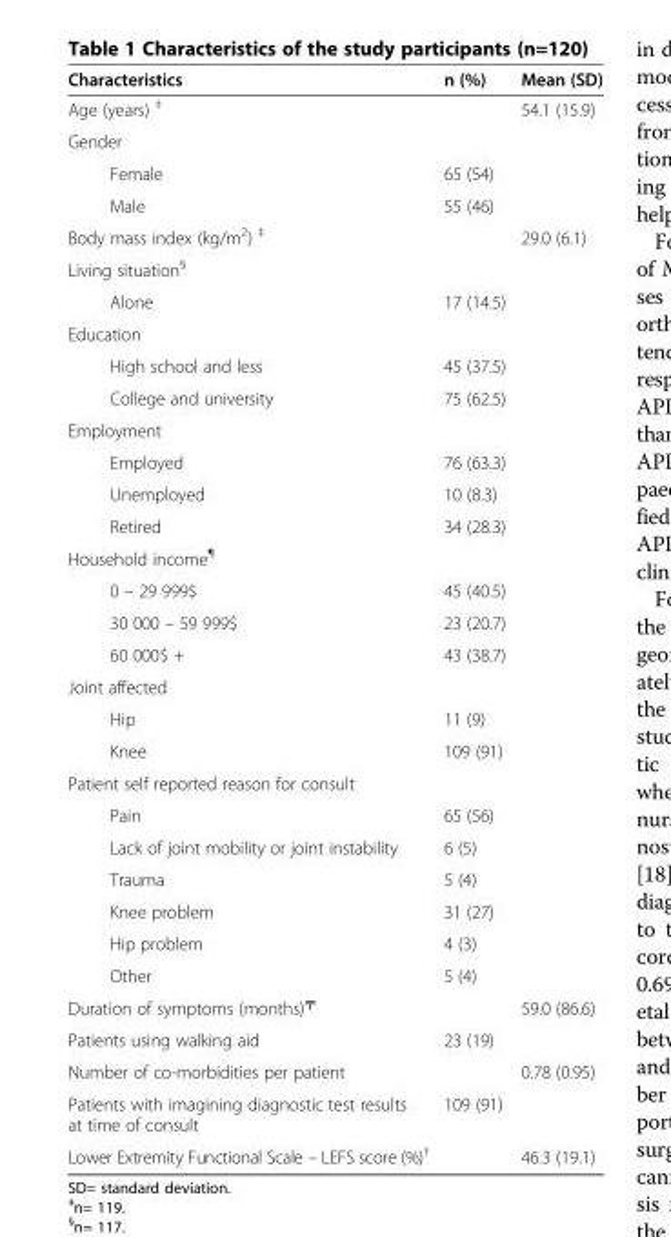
<table><thead><tr><td>Characteristics</td><td>n (%)</td><td>Mean (SD)</td></tr></thead><tbody><tr><td>Age (years) <sup>‡</sup></td><td></td><td>54.1 (15.9)</td></tr><tr><td colspan="2">Gender</td><td rowspan="3"></td></tr><tr><td>Female</td><td>65 (54)</td></tr><tr><td>Male</td><td>55 (46)</td></tr><tr><td>Body mass index (kg/m<sup>2</sup>) <sup>‡</sup></td><td></td><td>29.0 (6.1)</td></tr><tr><td colspan="2">Living situation<sup>§</sup></td><td rowspan="2"></td></tr><tr><td>Alone</td><td>17 (14.5)</td></tr><tr><td colspan="2">Education</td><td rowspan="3"></td></tr><tr><td>High school and less</td><td>45 (37.5)</td></tr><tr><td>College and university</td><td>75 (62.5)</td></tr><tr><td colspan="2">Employment</td><td rowspan="4"></td></tr><tr><td>Employed</td><td>76 (63.3)</td></tr><tr><td>Unemployed</td><td>10 (8.3)</td></tr><tr><td>Retired</td><td>34 (28.3)</td></tr><tr><td colspan="2">Household income<sup>¶</sup></td><td rowspan="4"></td></tr><tr><td>0 – 29 999$</td><td>45 (40.5)</td></tr><tr><td>30 000 – 59 999$</td><td>23 (20.7)</td></tr><tr><td>60 000$ +</td><td>43 (38.7)</td></tr><tr><td colspan="2">Joint affected</td><td rowspan="3"></td></tr><tr><td>Hip</td><td>11 (9)</td></tr><tr><td>Knee</td><td>109 (91)</td></tr><tr><td colspan="2">Patient self reported reason for consult</td><td rowspan="7"></td></tr><tr><td>Pain</td><td>65 (56)</td></tr><tr><td>Lack of joint mobility or joint instability</td><td>6 (5)</td></tr><tr><td>Trauma</td><td>5 (4)</td></tr><tr><td>Knee problem</td><td>31 (27)</td></tr><tr><td>Hip problem</td><td>4 (3)</td></tr><tr><td>Other</td><td>5 (4)</td></tr><tr><td>Duration of symptoms (months)<sup>╤</sup></td><td></td><td>59.0 (86.6)</td></tr><tr><td>Patients using walking aid</td><td>23 (19)</td><td></td></tr><tr><td>Number of co-morbidities per patient</td><td></td><td>0.78 (0.95)</td></tr><tr><td>Patients with imagining diagnostic test results at time of consult</td><td>109 (91)</td><td></td></tr><tr><td>Lower Extremity Functional Scale – LEFS score (%)<sup>†</sup></td><td></td><td>46.3 (19.1)</td></tr></tbody></table>